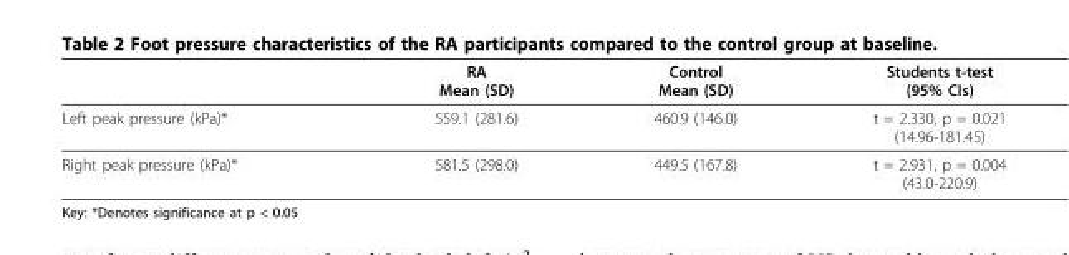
<table><thead><tr><td></td><td>RA Mean (SD)</td><td>Control Mean (SD)</td><td>Students t-test (95% CIs)</td></tr></thead><tbody><tr><td>Left peak pressure (kPa)*</td><td>559.1 (281.6)</td><td>460.9 (146.0)</td><td>t = 2.330, p = 0.021 (14.96-181.45)</td></tr><tr><td>Right peak pressure (kPa)*</td><td>581.5 (298.0)</td><td>449.5 (167.8)</td><td>t = 2.931, p = 0.004 (43.0-220.9)</td></tr></tbody></table>